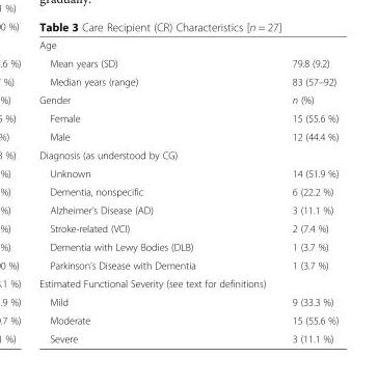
<table><tbody><tr><td colspan="2">Age</td></tr><tr><td>Mean years (SD)</td><td>79.8 (9.2)</td></tr><tr><td>Median years (range)</td><td>83 (57–92)</td></tr><tr><td>Gender</td><td>n (%)</td></tr><tr><td>Female</td><td>15 (55.6 %)</td></tr><tr><td>Male</td><td>12 (44.4 %)</td></tr><tr><td colspan="2">Diagnosis (as understood by CG)</td></tr><tr><td>Unknown</td><td>14 (51.9 %)</td></tr><tr><td>Dementia, nonspecific</td><td>6 (22.2 %)</td></tr><tr><td>Alzheimer’s Disease (AD)</td><td>3 (11.1 %)</td></tr><tr><td>Stroke-related (VCI)</td><td>2 (7.4 %)</td></tr><tr><td>Dementia with Lewy Bodies (DLB)</td><td>1 (3.7 %)</td></tr><tr><td>Parkinson’s Disease with Dementia</td><td>1 (3.7 %)</td></tr><tr><td colspan="2">Estimated Functional Severity (see text for definitions)</td></tr><tr><td>Mild</td><td>9 (33.3 %)</td></tr><tr><td>Moderate</td><td>15 (55.6 %)</td></tr><tr><td>Severe</td><td>3 (11.1 %)</td></tr></tbody></table>